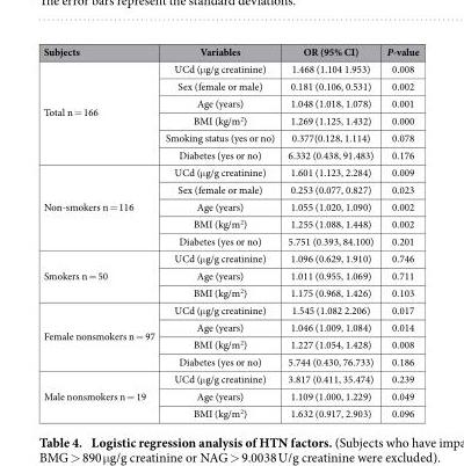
<table><thead><tr><td>Subjects</td><td>Variables</td><td>OR (95% CI)</td><td>P-value</td></tr></thead><tbody><tr><td rowspan="6">Total n = 166</td><td>UCd (μ g/g creatinine)</td><td>1.468 (1.104 1.953)</td><td>0.008</td></tr><tr><td>Sex (female or male)</td><td>0.181 (0.106, 0.531)</td><td>0.002</td></tr><tr><td>Age (years)</td><td>1.048 (1.018, 1.078)</td><td>0.001</td></tr><tr><td>BMI (kg/m<sup>2</sup>)</td><td>1.269 (1.125, 1.432)</td><td>0.000</td></tr><tr><td>Smoking status (yes or no)</td><td>0.377(0.128, 1.114)</td><td>0.078</td></tr><tr><td>Diabetes (yes or no)</td><td>6.332 (0.438, 91.483)</td><td>0.176</td></tr><tr><td rowspan="5">Non-smokers n = 116</td><td>UCd (μ g/g creatinine)</td><td>1.601 (1.123, 2.284)</td><td>0.009</td></tr><tr><td>Sex (female or male)</td><td>0.253 (0.077, 0.827)</td><td>0.023</td></tr><tr><td>Age (years)</td><td>1.055 (1.020, 1.090)</td><td>0.002</td></tr><tr><td>BMI (kg/m<sup>2</sup>)</td><td>1.255 (1.088, 1.448)</td><td>0.002</td></tr><tr><td>Diabetes (yes or no)</td><td>5.751 (0.393, 84.100)</td><td>0.201</td></tr><tr><td rowspan="3">Smokers n = 50</td><td>UCd (μ g/g creatinine)</td><td>1.096 (0.629, 1.910)</td><td>0.746</td></tr><tr><td>Age (years)</td><td>1.011 (0.955, 1.069)</td><td>0.711</td></tr><tr><td>BMI (kg/m<sup>2</sup>)</td><td>1.175 (0.968, 1.426)</td><td>0.103</td></tr><tr><td rowspan="4">Female nonsmokers n = 97</td><td>UCd (μ g/g creatinine)</td><td>1.545 (1.082 2.206)</td><td>0.017</td></tr><tr><td>Age (years)</td><td>1.046 (1.009, 1.084)</td><td>0.014</td></tr><tr><td>BMI (kg/m<sup>2</sup>)</td><td>1.227 (1.054, 1.428)</td><td>0.008</td></tr><tr><td>Diabetes (yes or no)</td><td>5.744 (0.430, 76.733)</td><td>0.186</td></tr><tr><td rowspan="3">Male nonsmokers n = 19</td><td>UCd (μ g/g creatinine)</td><td>3.817 (0.411, 35.474)</td><td>0.239</td></tr><tr><td>Age (years)</td><td>1.109 (1.000, 1.229)</td><td>0.049</td></tr><tr><td>BMI (kg/m<sup>2</sup>)</td><td>1.632 (0.917, 2.903)</td><td>0.096</td></tr></tbody></table>